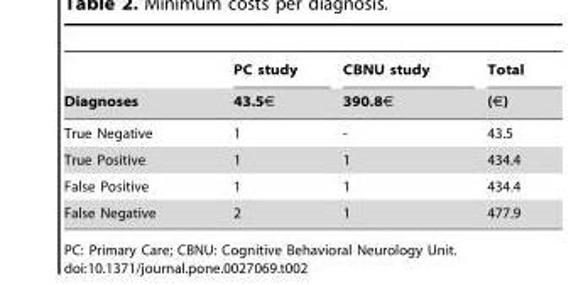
<table><thead><tr><td rowspan="2">Diagnoses</td><td rowspan="2">PC study 43.5€</td><td rowspan="2">CBNU study 390.8€</td><td rowspan="2">Total (€)</td></tr><tr></tr></thead><tbody><tr><td>True Negative</td><td>1</td><td>-</td><td>43.5</td></tr><tr><td>True Positive</td><td>1</td><td>1</td><td>434.4</td></tr><tr><td>False Positive</td><td>1</td><td>1</td><td>434.4</td></tr><tr><td>False Negative</td><td>2</td><td>1</td><td>477.9</td></tr></tbody></table>